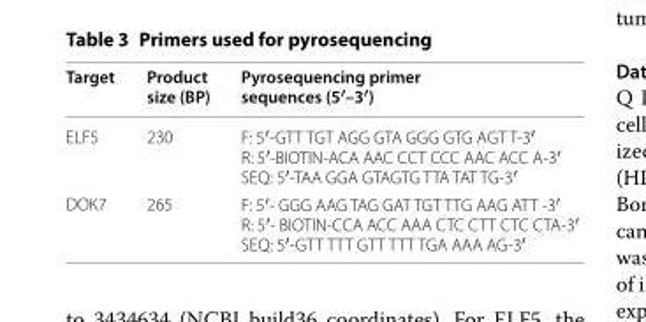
<table><thead><tr><td>Target</td><td>Product size (BP)</td><td>Pyrosequencing primer sequences (5′–3′)</td></tr></thead><tbody><tr><td>ELF5</td><td>230</td><td>F: 5′-GTT TGT AGG GTA GGG GTG AGT T-3′ R: 5′-BIOTIN-ACA AAC CCT CCC AAC ACC A-3′ SEQ: 5′-TAA GGA GTAGTG TTA TAT TG-3′</td></tr><tr><td>DOK7</td><td>265</td><td>F: 5′- GGG AAG TAG GAT TGT TTG AAG ATT -3′ R: 5′- BIOTIN-CCA ACC AAA CTC CTT CTC CTA-3′ SEQ: 5′-GTT TTT GTT TTT TGA AAA AG-3′</td></tr></tbody></table>